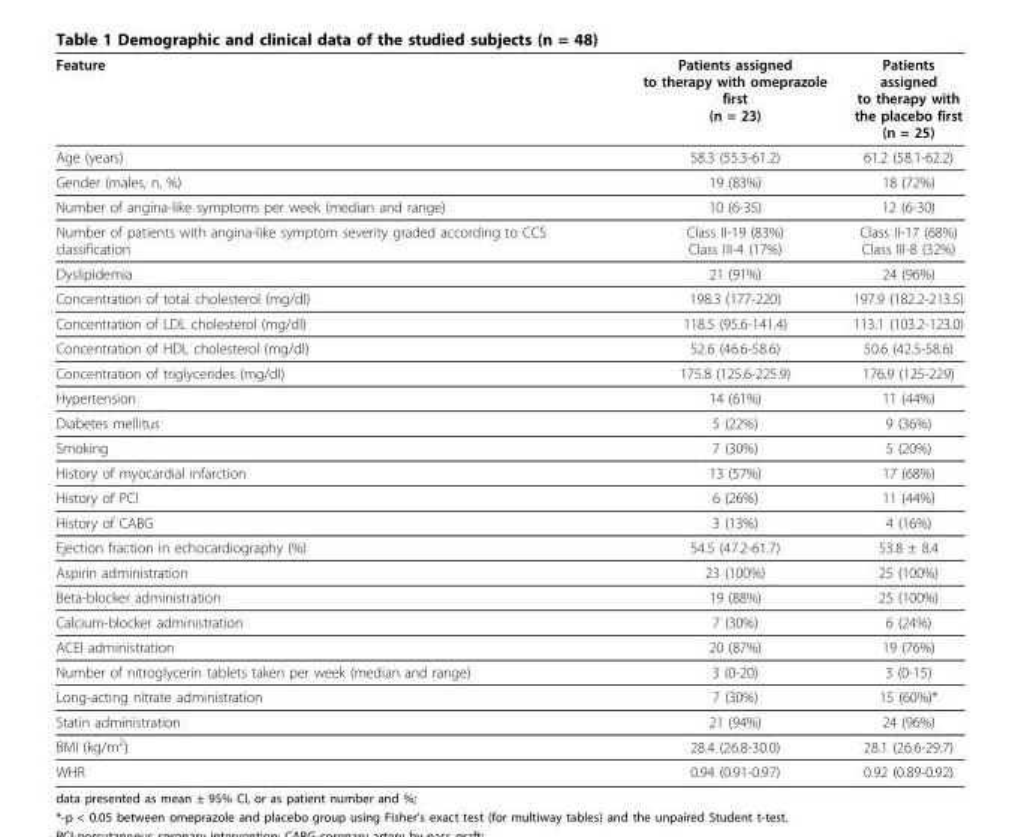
<table><thead><tr><td>Feature</td><td>Patients assigned to therapy with omeprazole first (n = 23)</td><td>Patients assigned to therapy with the placebo first (n = 25)</td></tr></thead><tbody><tr><td>Age (years)</td><td>58.3 (55.3-61.2)</td><td>61.2 (58.1-62.2)</td></tr><tr><td>Gender (males, n, %)</td><td>19 (83%)</td><td>18 (72%)</td></tr><tr><td>Number of angina-like symptoms per week (median and range)</td><td>10 (6-35)</td><td>12 (6-30)</td></tr><tr><td>Number of patients with angina-like symptom severity graded according to CCS classification</td><td>Class II-19 (83%) Class III-4 (17%)</td><td>Class II-17 (68%) Class III-8 (32%)</td></tr><tr><td>Dyslipidemia</td><td>21 (91%)</td><td>24 (96%)</td></tr><tr><td>Concentration of total cholesterol (mg/dl)</td><td>198.3 (177-220)</td><td>197.9 (182.2-213.5)</td></tr><tr><td>Concentration of LDL cholesterol (mg/dl)</td><td>118.5 (95.6-141.4)</td><td>113.1 (103.2-123.0)</td></tr><tr><td>Concentration of HDL cholesterol (mg/dl)</td><td>52.6 (46.6-58.6)</td><td>50.6 (42.5-58.6)</td></tr><tr><td>Concentration of triglycerides (mg/dl)</td><td>175.8 (125.6-225.9)</td><td>176.9 (125-229)</td></tr><tr><td>Hypertension</td><td>14 (61%)</td><td>11 (44%)</td></tr><tr><td>Diabetes mellitus</td><td>5 (22%)</td><td>9 (36%)</td></tr><tr><td>Smoking</td><td>7 (30%)</td><td>5 (20%)</td></tr><tr><td>History of myocardial infarction</td><td>13 (57%)</td><td>17 (68%)</td></tr><tr><td>History of PCI</td><td>6 (26%)</td><td>11 (44%)</td></tr><tr><td>History of CABG</td><td>3 (13%)</td><td>4 (16%)</td></tr><tr><td>Ejection fraction in echocardiography (%)</td><td>54.5 (47.2-61.7)</td><td>53.8 ± 8.4</td></tr><tr><td>Aspirin administration</td><td>23 (100%)</td><td>25 (100%)</td></tr><tr><td>Beta-blocker administration</td><td>19 (88%)</td><td>25 (100%)</td></tr><tr><td>Calcium-blocker administration</td><td>7 (30%)</td><td>6 (24%)</td></tr><tr><td>ACEI administration</td><td>20 (87%)</td><td>19 (76%)</td></tr><tr><td>Number of nitroglycerin tablets taken per week (median and range)</td><td>3 (0-20)</td><td>3 (0-15)</td></tr><tr><td>Long-acting nitrate administration</td><td>7 (30%)</td><td>15 (60%)*</td></tr><tr><td>Statin administration</td><td>21 (94%)</td><td>24 (96%)</td></tr><tr><td>BMI (kg/m<sup>2</sup>)</td><td>28.4 (26.8-30.0)</td><td>28.1 (26.6-29.7)</td></tr><tr><td>WHR</td><td>0.94 (0.91-0.97)</td><td>0.92 (0.89-0.92)</td></tr></tbody></table>